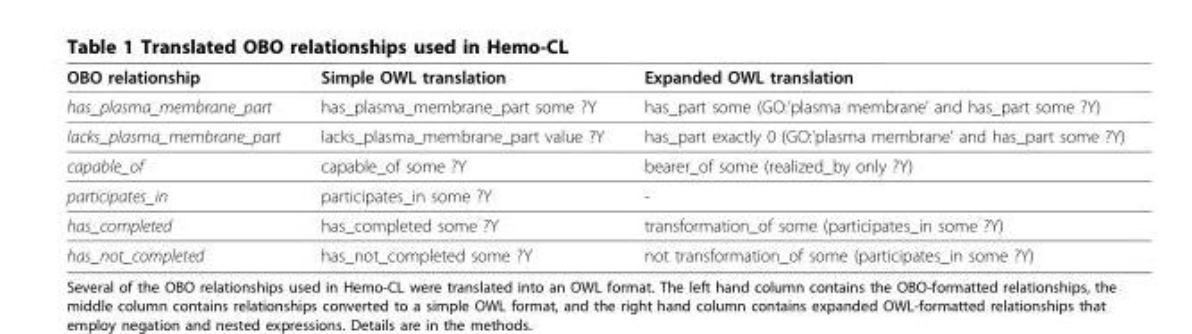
<table><thead><tr><td>OBO relationship</td><td>Simple OWL translation</td><td>Expanded OWL translation</td></tr></thead><tbody><tr><td>has_plasma_membrane_part</td><td>has_plasma_membrane_part some ?Y</td><td>has_part some (GO:’plasma membrane’ and has_part some ?Y)</td></tr><tr><td>lacks_plasma_membrane_part</td><td>lacks_plasma_membrane_part value ?Y</td><td>has_part exactly 0 (GO:’plasma membrane’ and has_part some ?Y)</td></tr><tr><td>capable_of</td><td>capable_of some ?Y</td><td>bearer_of some (realized_by only ?Y)</td></tr><tr><td>participates_in</td><td>participates_in some ?Y</td><td>-</td></tr><tr><td>has_completed</td><td>has_completed some ?Y</td><td>transformation_of some (participates_in some ?Y)</td></tr><tr><td>has_not_completed</td><td>has_not_completed some ?Y</td><td>not transformation_of some (participates_in some ?Y)</td></tr></tbody></table>